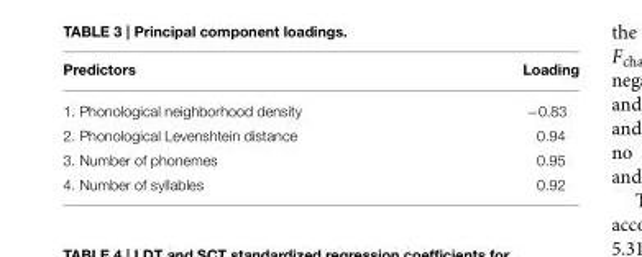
<table><thead><tr><td>Predictors</td><td>Loading</td></tr></thead><tbody><tr><td>1. Phonological neighborhood density</td><td>−0.83</td></tr><tr><td>2. Phonological Levenshtein distance</td><td>0.94</td></tr><tr><td>3. Number of phonemes</td><td>0.95</td></tr><tr><td>4. Number of syllables</td><td>0.92</td></tr></tbody></table>